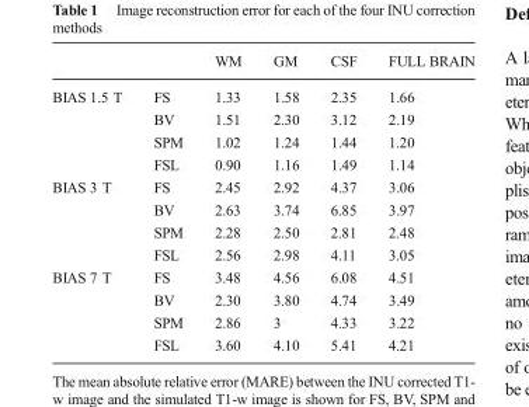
<table><thead><tr><td></td><td></td><td>WM</td><td>GM</td><td>CSF</td><td>FULL BRAIN</td></tr></thead><tbody><tr><td rowspan="4">BIAS 1.5 T</td><td>FS</td><td>1.33</td><td>1.58</td><td>2.35</td><td>1.66</td></tr><tr><td>BV</td><td>1.51</td><td>2.30</td><td>3.12</td><td>2.19</td></tr><tr><td>SPM</td><td>1.02</td><td>1.24</td><td>1.44</td><td>1.20</td></tr><tr><td>FSL</td><td>0.90</td><td>1.16</td><td>1.49</td><td>1.14</td></tr><tr><td rowspan="4">BIAS 3 T</td><td>FS</td><td>2.45</td><td>2.92</td><td>4.37</td><td>3.06</td></tr><tr><td>BV</td><td>2.63</td><td>3.74</td><td>6.85</td><td>3.97</td></tr><tr><td>SPM</td><td>2.28</td><td>2.50</td><td>2.81</td><td>2.48</td></tr><tr><td>FSL</td><td>2.56</td><td>2.98</td><td>4.11</td><td>3.05</td></tr><tr><td rowspan="4">BIAS 7 T</td><td>FS</td><td>3.48</td><td>4.56</td><td>6.08</td><td>4.51</td></tr><tr><td>BV</td><td>2.30</td><td>3.80</td><td>4.74</td><td>3.49</td></tr><tr><td>SPM</td><td>2.86</td><td>3</td><td>4.33</td><td>3.22</td></tr><tr><td>FSL</td><td>3.60</td><td>4.10</td><td>5.41</td><td>4.21</td></tr></tbody></table>